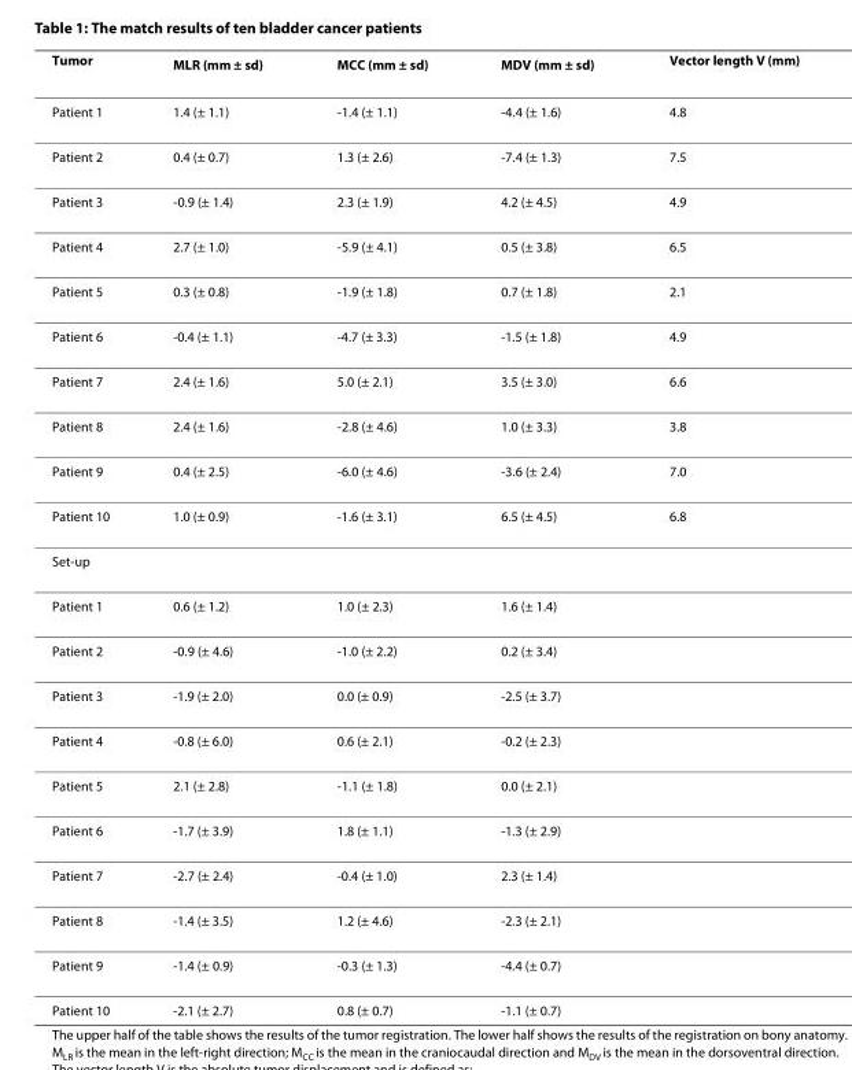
<table><thead><tr><td>Tumor</td><td>M<sub>LR</sub> (mm ± sd)</td><td>M<sub>CC</sub> (mm ± sd)</td><td>M<sub>DV</sub> (mm ± sd)</td><td>Vector length V (mm)</td></tr></thead><tbody><tr><td>Patient 1</td><td>1.4 (± 1.1)</td><td>-1.4 (± 1.1)</td><td>-4.4 (± 1.6)</td><td>4.8</td></tr><tr><td>Patient 2</td><td>0.4 (± 0.7)</td><td>1.3 (± 2.6)</td><td>-7.4 (± 1.3)</td><td>7.5</td></tr><tr><td>Patient 3</td><td>-0.9 (± 1.4)</td><td>2.3 (± 1.9)</td><td>4.2 (± 4.5)</td><td>4.9</td></tr><tr><td>Patient 4</td><td>2.7 (± 1.0)</td><td>-5.9 (± 4.1)</td><td>0.5 (± 3.8)</td><td>6.5</td></tr><tr><td>Patient 5</td><td>0.3 (± 0.8)</td><td>-1.9 (± 1.8)</td><td>0.7 (± 1.8)</td><td>2.1</td></tr><tr><td>Patient 6</td><td>-0.4 (± 1.1)</td><td>-4.7 (± 3.3)</td><td>-1.5 (± 1.8)</td><td>4.9</td></tr><tr><td>Patient 7</td><td>2.4 (± 1.6)</td><td>5.0 (± 2.1)</td><td>3.5 (± 3.0)</td><td>6.6</td></tr><tr><td>Patient 8</td><td>2.4 (± 1.6)</td><td>-2.8 (± 4.6)</td><td>1.0 (± 3.3)</td><td>3.8</td></tr><tr><td>Patient 9</td><td>0.4 (± 2.5)</td><td>-6.0 (± 4.6)</td><td>-3.6 (± 2.4)</td><td>7.0</td></tr><tr><td>Patient 10</td><td>1.0 (± 0.9)</td><td>-1.6 (± 3.1)</td><td>6.5 (± 4.5)</td><td>6.8</td></tr><tr><td colspan="5">Set-up</td></tr><tr><td>Patient 1</td><td>0.6 (± 1.2)</td><td>1.0 (± 2.3)</td><td>1.6 (± 1.4)</td><td></td></tr><tr><td>Patient 2</td><td>-0.9 (± 4.6)</td><td>-1.0 (± 2.2)</td><td>0.2 (± 3.4)</td><td></td></tr><tr><td>Patient 3</td><td>-1.9 (± 2.0)</td><td>0.0 (± 0.9)</td><td>-2.5 (± 3.7)</td><td></td></tr><tr><td>Patient 4</td><td>-0.8 (± 6.0)</td><td>0.6 (± 2.1)</td><td>-0.2 (± 2.3)</td><td></td></tr><tr><td>Patient 5</td><td>2.1 (± 2.8)</td><td>-1.1 (± 1.8)</td><td>0.0 (± 2.1)</td><td></td></tr><tr><td>Patient 6</td><td>-1.7 (± 3.9)</td><td>1.8 (± 1.1)</td><td>-1.3 (± 2.9)</td><td></td></tr><tr><td>Patient 7</td><td>-2.7 (± 2.4)</td><td>-0.4 (± 1.0)</td><td>2.3 (± 1.4)</td><td></td></tr><tr><td>Patient 8</td><td>-1.4 (± 3.5)</td><td>1.2 (± 4.6)</td><td>-2.3 (± 2.1)</td><td></td></tr><tr><td>Patient 9</td><td>-1.4 (± 0.9)</td><td>-0.3 (± 1.3)</td><td>-4.4 (± 0.7)</td><td></td></tr><tr><td>Patient 10</td><td>-2.1 (± 2.7)</td><td>0.8 (± 0.7)</td><td>-1.1 (± 0.7)</td><td></td></tr></tbody></table>